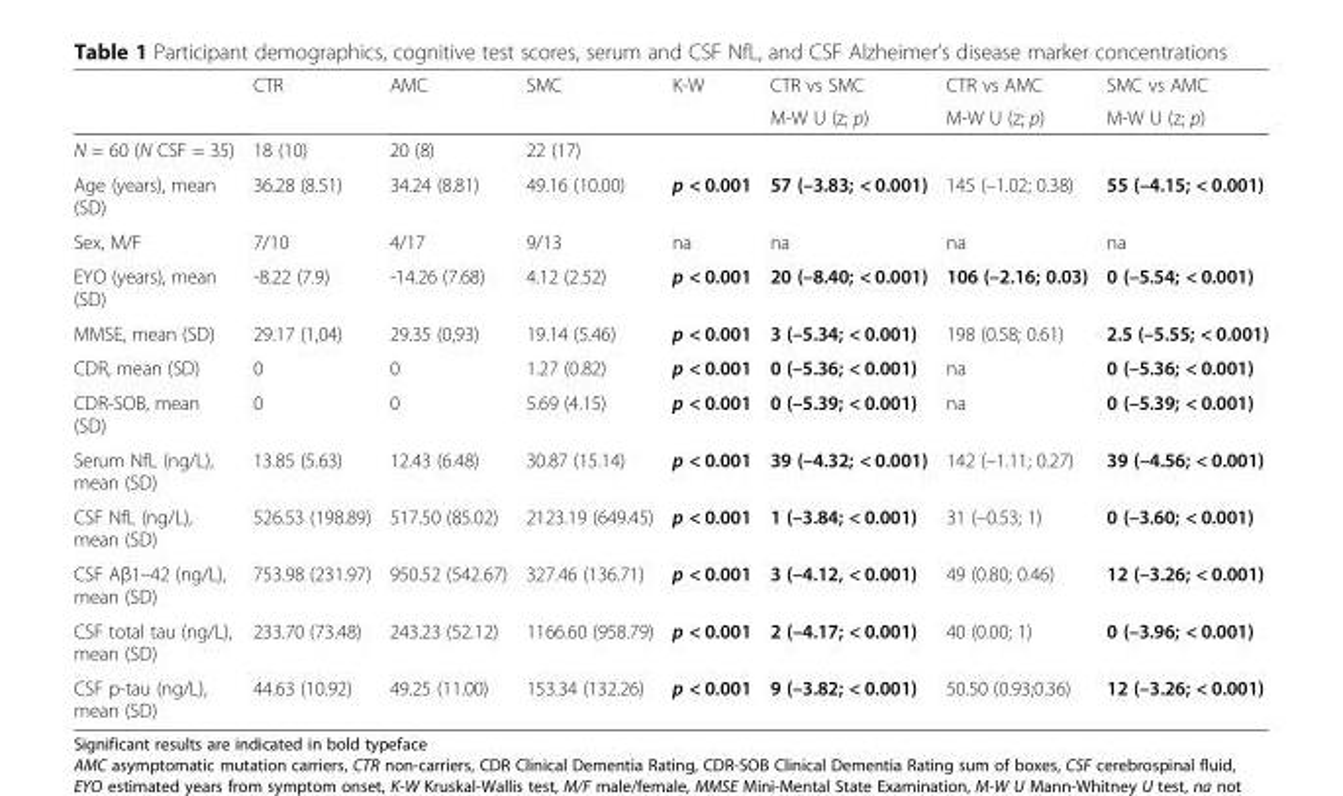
<table><thead><tr><td rowspan="2"></td><td rowspan="2">CTR</td><td rowspan="2">AMC</td><td rowspan="2">SMC</td><td rowspan="2">K-W</td><td rowspan="2">CTR vs SMC M-W U (z; p)</td><td rowspan="2">CTR vs AMC M-W U (z; p)</td><td rowspan="2">SMC vs AMC M-W U (z; p)</td></tr><tr></tr></thead><tbody><tr><td>N = 60 (N CSF = 35)</td><td>18 (10)</td><td>20 (8)</td><td>22 (17)</td><td></td><td></td><td></td><td></td></tr><tr><td>Age (years), mean (SD)</td><td>36.28 (8.51)</td><td>34.24 (8.81)</td><td>49.16 (10.00)</td><td>p &lt; 0.001</td><td>57 (–3.83; &lt; 0.001)</td><td>145 (–1.02; 0.38)</td><td>55 (–4.15; &lt; 0.001)</td></tr><tr><td>Sex, M/F</td><td>7/10</td><td>4/17</td><td>9/13</td><td>na</td><td>na</td><td>na</td><td>na</td></tr><tr><td>EYO (years), mean (SD)</td><td>-8.22 (7.9)</td><td>-14.26 (7.68)</td><td>4.12 (2.52)</td><td>p &lt; 0.001</td><td>20 (–8.40; &lt; 0.001)</td><td>106 (–2.16; 0.03)</td><td>0 (–5.54; &lt; 0.001)</td></tr><tr><td>MMSE, mean (SD)</td><td>29.17 (1,04)</td><td>29.35 (0,93)</td><td>19.14 (5.46)</td><td>p &lt; 0.001</td><td>3 (–5.34; &lt; 0.001)</td><td>198 (0.58; 0.61)</td><td>2.5 (–5.55; &lt; 0.001)</td></tr><tr><td>CDR, mean (SD)</td><td>0</td><td>0</td><td>1.27 (0.82)</td><td>p &lt; 0.001</td><td>0 (–5.36; &lt; 0.001)</td><td>na</td><td>0 (–5.36; &lt; 0.001)</td></tr><tr><td>CDR-SOB, mean (SD)</td><td>0</td><td>0</td><td>5.69 (4.15)</td><td>p &lt; 0.001</td><td>0 (–5.39; &lt; 0.001)</td><td>na</td><td>0 (–5.39; &lt; 0.001)</td></tr><tr><td>Serum NfL (ng/L), mean (SD)</td><td>13.85 (5.63)</td><td>12.43 (6.48)</td><td>30.87 (15.14)</td><td>p &lt; 0.001</td><td>39 (–4.32; &lt; 0.001)</td><td>142 (–1.11; 0.27)</td><td>39 (–4.56; &lt; 0.001)</td></tr><tr><td>CSF NfL (ng/L), mean (SD)</td><td>526.53 (198.89)</td><td>517.50 (85.02)</td><td>2123.19 (649.45)</td><td>p &lt; 0.001</td><td>1 (–3.84; &lt; 0.001)</td><td>31 (–0.53; 1)</td><td>0 (–3.60; &lt; 0.001)</td></tr><tr><td>CSF Aβ1–42 (ng/L), mean (SD)</td><td>753.98 (231.97)</td><td>950.52 (542.67)</td><td>327.46 (136.71)</td><td>p &lt; 0.001</td><td>3 (–4.12, &lt; 0.001)</td><td>49 (0.80; 0.46)</td><td>12 (–3.26; &lt; 0.001)</td></tr><tr><td>CSF total tau (ng/L), mean (SD)</td><td>233.70 (73.48)</td><td>243.23 (52.12)</td><td>1166.60 (958.79)</td><td>p &lt; 0.001</td><td>2 (–4.17; &lt; 0.001)</td><td>40 (0.00; 1)</td><td>0 (–3.96; &lt; 0.001)</td></tr><tr><td>CSF p-tau (ng/L), mean (SD)</td><td>44.63 (10.92)</td><td>49.25 (11.00)</td><td>153.34 (132.26)</td><td>p &lt; 0.001</td><td>9 (–3.82; &lt; 0.001)</td><td>50.50 (0.93;0.36)</td><td>12 (–3.26; &lt; 0.001)</td></tr></tbody></table>